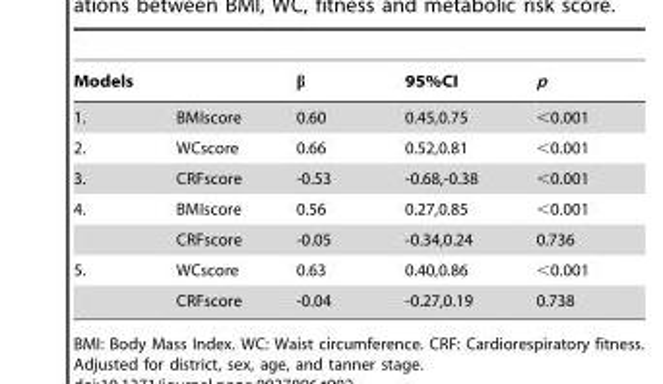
<table><thead><tr><td colspan="2">Models</td><td rowspan="2">β 0.60</td><td rowspan="2">95%CI 0.45,0.75</td><td rowspan="2">p &lt;0.001</td></tr><tr><td>1.</td><td>BMIscore</td></tr></thead><tbody><tr><td>2.</td><td>WCscore</td><td>0.66</td><td>0.52,0.81</td><td>&lt;0.001</td></tr><tr><td>3.</td><td>CRFscore</td><td>-0.53</td><td>-0.68,-0.38</td><td>&lt;0.001</td></tr><tr><td rowspan="2">4.</td><td>BMIscore</td><td>0.56</td><td>0.27,0.85</td><td>&lt;0.001</td></tr><tr><td>CRFscore</td><td>-0.05</td><td>-0.34,0.24</td><td>0.736</td></tr><tr><td rowspan="2">5.</td><td>WCscore</td><td>0.63</td><td>0.40,0.86</td><td>&lt;0.001</td></tr><tr><td>CRFscore</td><td>-0.04</td><td>-0.27,0.19</td><td>0.738</td></tr></tbody></table>